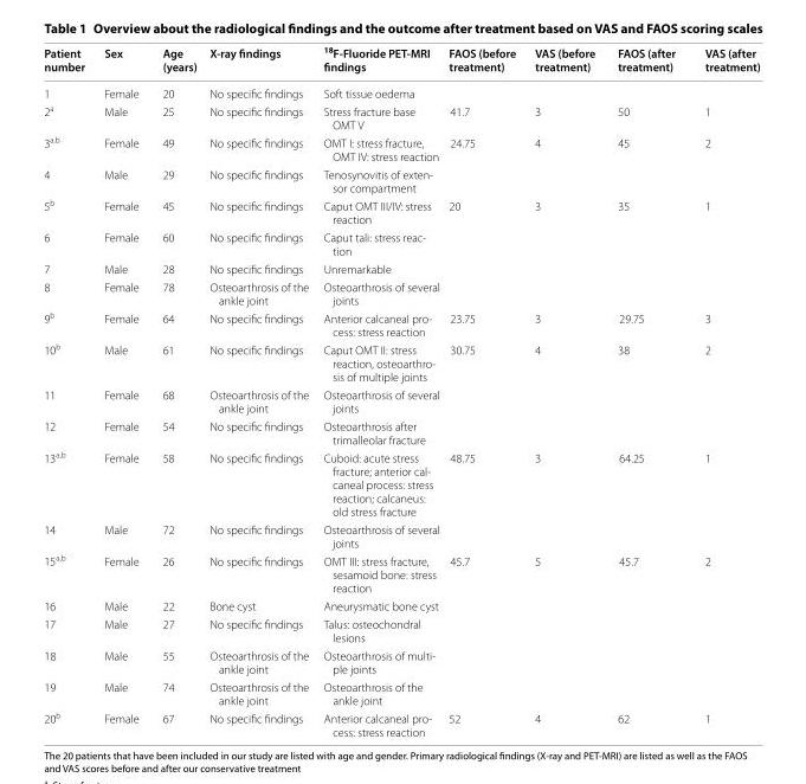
<table><thead><tr><td>Patient number</td><td>Sex</td><td>Age (years)</td><td>X‑ray findings</td><td><sup>18</sup>F‑Fluoride PET‑MRI findings</td><td>FAOS (before treatment)</td><td>VAS (before treatment)</td><td>FAOS (after treatment)</td><td>VAS (after treatment)</td></tr></thead><tbody><tr><td>1</td><td>Female</td><td>20</td><td>No specific findings</td><td>Soft tissue oedema</td><td></td><td></td><td></td><td></td></tr><tr><td>2<sup>a</sup></td><td>Male</td><td>25</td><td>No specific findings</td><td>Stress fracture base OMT V</td><td>41.7</td><td>3</td><td>50</td><td>1</td></tr><tr><td>3<sup>a,b</sup></td><td>Female</td><td>49</td><td>No specific findings</td><td>OMT I: stress fracture, OMT IV: stress reaction</td><td>24.75</td><td>4</td><td>45</td><td>2</td></tr><tr><td>4</td><td>Male</td><td>29</td><td>No specific findings</td><td>Tenosynovitis of exten- sor compartment</td><td></td><td></td><td></td><td></td></tr><tr><td>5<sup>b</sup></td><td>Female</td><td>45</td><td>No specific findings</td><td>Caput OMT III/IV: stress reaction</td><td>20</td><td>3</td><td>35</td><td>1</td></tr><tr><td>6</td><td>Female</td><td>60</td><td>No specific findings</td><td>Caput tali: stress reac- tion</td><td></td><td></td><td></td><td></td></tr><tr><td>7</td><td>Male</td><td>28</td><td>No specific findings</td><td>Unremarkable</td><td></td><td></td><td></td><td></td></tr><tr><td>8</td><td>Female</td><td>78</td><td>Osteoarthrosis of the ankle joint</td><td>Osteoarthrosis of several joints</td><td></td><td></td><td></td><td></td></tr><tr><td>9<sup>b</sup></td><td>Female</td><td>64</td><td>No specific findings</td><td>Anterior calcaneal pro- cess: stress reaction</td><td>23.75</td><td>3</td><td>29.75</td><td>3</td></tr><tr><td>10<sup>b</sup></td><td>Male</td><td>61</td><td>No specific findings</td><td>Caput OMT II: stress reaction, osteoarthro- sis of multiple joints</td><td>30.75</td><td>4</td><td>38</td><td>2</td></tr><tr><td>11</td><td>Female</td><td>68</td><td>Osteoarthrosis of the ankle joint</td><td>Osteoarthrosis of several joints</td><td></td><td></td><td></td><td></td></tr><tr><td>12</td><td>Female</td><td>54</td><td>No specific findings</td><td>Osteoarthrosis after trimalleolar fracture</td><td></td><td></td><td></td><td></td></tr><tr><td>13<sup>a,b</sup></td><td>Female</td><td>58</td><td>No specific findings</td><td>Cuboid: acute stress fracture; anterior cal- caneal process: stress reaction; calcaneus: old stress fracture</td><td>48.75</td><td>3</td><td>64.25</td><td>1</td></tr><tr><td>14</td><td>Male</td><td>72</td><td>No specific findings</td><td>Osteoarthrosis of several joints</td><td></td><td></td><td></td><td></td></tr><tr><td>15<sup>a,b</sup></td><td>Female</td><td>26</td><td>No specific findings</td><td>OMT III: stress fracture, sesamoid bone: stress reaction</td><td>45.7</td><td>5</td><td>45.7</td><td>2</td></tr><tr><td>16</td><td>Male</td><td>22</td><td>Bone cyst</td><td>Aneurysmatic bone cyst</td><td></td><td></td><td></td><td></td></tr><tr><td>17</td><td>Male</td><td>27</td><td>No specific findings</td><td>Talus: osteochondral lesions</td><td></td><td></td><td></td><td></td></tr><tr><td>18</td><td>Male</td><td>55</td><td>Osteoarthrosis of the ankle joint</td><td>Osteoarthrosis of multi- ple joints</td><td></td><td></td><td></td><td></td></tr><tr><td>19</td><td>Male</td><td>74</td><td>Osteoarthrosis of the ankle joint</td><td>Osteoarthrosis of the ankle joint</td><td></td><td></td><td></td><td></td></tr><tr><td>20<sup>b</sup></td><td>Female</td><td>67</td><td>No specific findings</td><td>Anterior calcaneal pro- cess: stress reaction</td><td>52</td><td>4</td><td>62</td><td>1</td></tr></tbody></table>